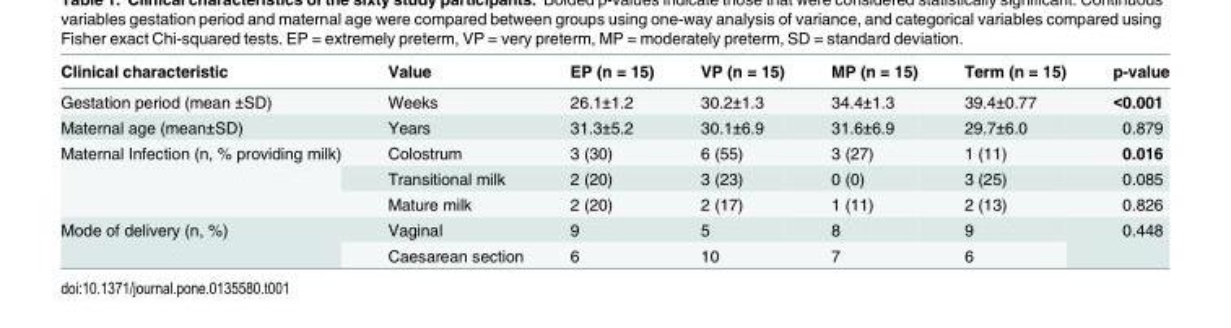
<table><thead><tr><td>Clinical characteristic</td><td>Value</td><td>EP (n = 15)</td><td>VP (n = 15)</td><td>MP (n = 15)</td><td>Term (n = 15)</td><td>p-value</td></tr></thead><tbody><tr><td>Gestation period (mean ±SD)</td><td>Weeks</td><td>26.1±1.2</td><td>30.2±1.3</td><td>34.4±1.3</td><td>39.4±0.77</td><td>&lt;0.001</td></tr><tr><td>Maternal age (mean±SD)</td><td>Years</td><td>31.3±5.2</td><td>30.1±6.9</td><td>31.6±6.9</td><td>29.7±6.0</td><td>0.879</td></tr><tr><td rowspan="3">Maternal Infection (n, % providing milk)</td><td>Colostrum</td><td>3 (30)</td><td>6 (55)</td><td>3 (27)</td><td>1 (11)</td><td>0.016</td></tr><tr><td>Transitional milk</td><td>2 (20)</td><td>3 (23)</td><td>0 (0)</td><td>3 (25)</td><td>0.085</td></tr><tr><td>Mature milk</td><td>2 (20)</td><td>2 (17)</td><td>1 (11)</td><td>2 (13)</td><td>0.826</td></tr><tr><td rowspan="2">Mode of delivery (n, %)</td><td>Vaginal</td><td>9</td><td>5</td><td>8</td><td>9</td><td rowspan="2">0.448</td></tr><tr><td>Caesarean section</td><td>6</td><td>10</td><td>7</td><td>6</td></tr></tbody></table>